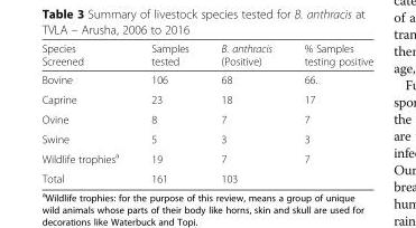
<table><thead><tr><td>Species Screened</td><td>Samples tested</td><td>B. anthracis (Positive)</td><td>% Samples testing positive</td></tr></thead><tbody><tr><td>Bovine</td><td>106</td><td>68</td><td>66.</td></tr><tr><td>Caprine</td><td>23</td><td>18</td><td>17</td></tr><tr><td>Ovine</td><td>8</td><td>7</td><td>7</td></tr><tr><td>Swine</td><td>5</td><td>3</td><td>3</td></tr><tr><td>Wildlife trophies<sup>a</sup></td><td>19</td><td>7</td><td>7</td></tr><tr><td>Total</td><td>161</td><td>103</td><td></td></tr></tbody></table>